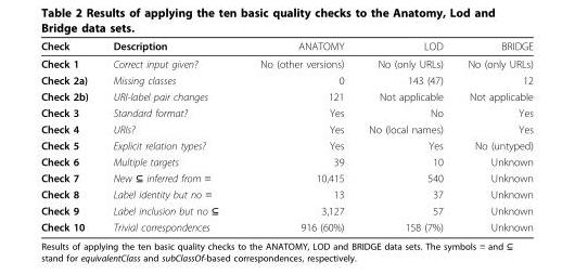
<table><thead><tr><td>Check</td><td>Description</td><td>ANATOMY</td><td>LOD</td><td>BRIDGE</td></tr></thead><tbody><tr><td>Check 1</td><td>Correct input given?</td><td>No (other versions)</td><td>No (only URLs)</td><td>No (only URLs)</td></tr><tr><td>Check 2a)</td><td>Missing classes</td><td>0</td><td>143 (47)</td><td>12</td></tr><tr><td>Check 2b)</td><td>URI-label pair changes</td><td>121</td><td>Not applicable</td><td>Not applicable</td></tr><tr><td>Check 3</td><td>Standard format?</td><td>Yes</td><td>No</td><td>Yes</td></tr><tr><td>Check 4</td><td>URIs?</td><td>Yes</td><td>No (local names)</td><td>Yes</td></tr><tr><td>Check 5</td><td>Explicit relation types?</td><td>Yes</td><td>Yes</td><td>No (untyped)</td></tr><tr><td>Check 6</td><td>Multiple targets</td><td>39</td><td>10</td><td>Unknown</td></tr><tr><td>Check 7</td><td>New ⊆ inferred from ≡</td><td>10,415</td><td>540</td><td>Unknown</td></tr><tr><td>Check 8</td><td>Label identity but no ≡</td><td>13</td><td>37</td><td>Unknown</td></tr><tr><td>Check 9</td><td>Label inclusion but no ⊆</td><td>3,127</td><td>57</td><td>Unknown</td></tr><tr><td>Check 10</td><td>Trivial correspondences</td><td>916 (60%)</td><td>158 (7%)</td><td>Unknown</td></tr></tbody></table>